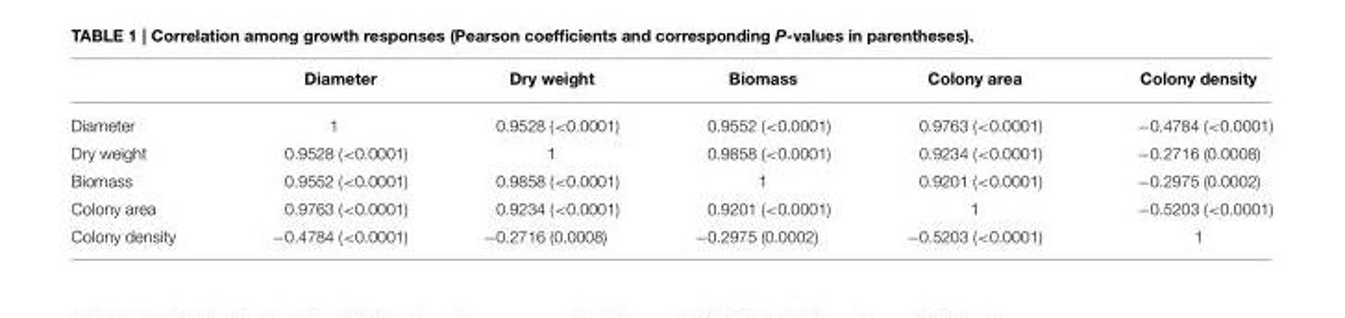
<table><thead><tr><td></td><td>Diameter</td><td>Dry weight</td><td>Biomass</td><td>Colony area</td><td>Colony density</td></tr></thead><tbody><tr><td>Diameter</td><td>1</td><td>0.9528 (&lt;0.0001)</td><td>0.9552 (&lt;0.0001)</td><td>0.9763 (&lt;0.0001)</td><td>−0.4784 (&lt;0.0001)</td></tr><tr><td>Dry weight</td><td>0.9528 (&lt;0.0001)</td><td>1</td><td>0.9858 (&lt;0.0001)</td><td>0.9234 (&lt;0.0001)</td><td>−0.2716 (0.0008)</td></tr><tr><td>Biomass</td><td>0.9552 (&lt;0.0001)</td><td>0.9858 (&lt;0.0001)</td><td>1</td><td>0.9201 (&lt;0.0001)</td><td>−0.2975 (0.0002)</td></tr><tr><td>Colony area</td><td>0.9763 (&lt;0.0001)</td><td>0.9234 (&lt;0.0001)</td><td>0.9201 (&lt;0.0001)</td><td>1</td><td>−0.5203 (&lt;0.0001)</td></tr><tr><td>Colony density</td><td>−0.4784 (&lt;0.0001)</td><td>−0.2716 (0.0008)</td><td>−0.2975 (0.0002)</td><td>−0.5203 (&lt;0.0001)</td><td>1</td></tr></tbody></table>